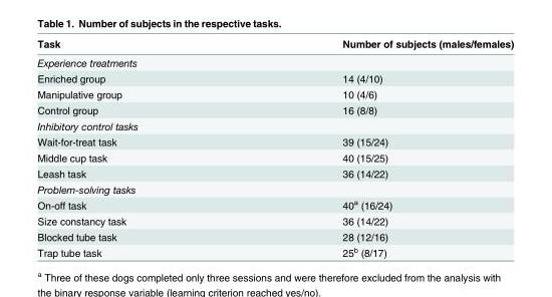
<table><thead><tr><td>Task</td><td>Number of subjects (males/females)</td></tr></thead><tbody><tr><td colspan="2">Experience treatments</td></tr><tr><td>Enriched group</td><td>14 (4/10)</td></tr><tr><td>Manipulative group</td><td>10 (4/6)</td></tr><tr><td>Control group</td><td>16 (8/8)</td></tr><tr><td colspan="2">Inhibitory control tasks</td></tr><tr><td>Wait-for-treat task</td><td>39 (15/24)</td></tr><tr><td>Middle cup task</td><td>40 (15/25)</td></tr><tr><td>Leash task</td><td>36 (14/22)</td></tr><tr><td colspan="2">Problem-solving tasks</td></tr><tr><td>On-off task</td><td>40<sup>a</sup> (16/24)</td></tr><tr><td>Size constancy task</td><td>36 (14/22)</td></tr><tr><td>Blocked tube task</td><td>28 (12/16)</td></tr><tr><td>Trap tube task</td><td>25<sup>b</sup> (8/17)</td></tr></tbody></table>